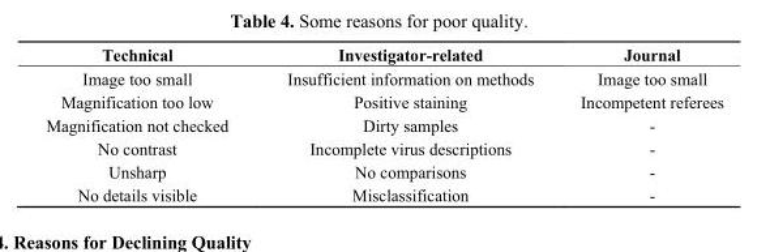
<table><thead><tr><td>Technical</td><td>Investigator-related</td><td>Journal</td></tr></thead><tbody><tr><td>Image too small</td><td>Insufficient information on methods</td><td>Image too small</td></tr><tr><td>Magnification too low</td><td>Positive staining</td><td>Incompetent referees</td></tr><tr><td>Magnification not checked</td><td>Dirty samples</td><td>-</td></tr><tr><td>No contrast</td><td>Incomplete virus descriptions</td><td>-</td></tr><tr><td>Unsharp</td><td>No comparisons</td><td>-</td></tr><tr><td>No details visible</td><td>Misclassification</td><td>-</td></tr></tbody></table>